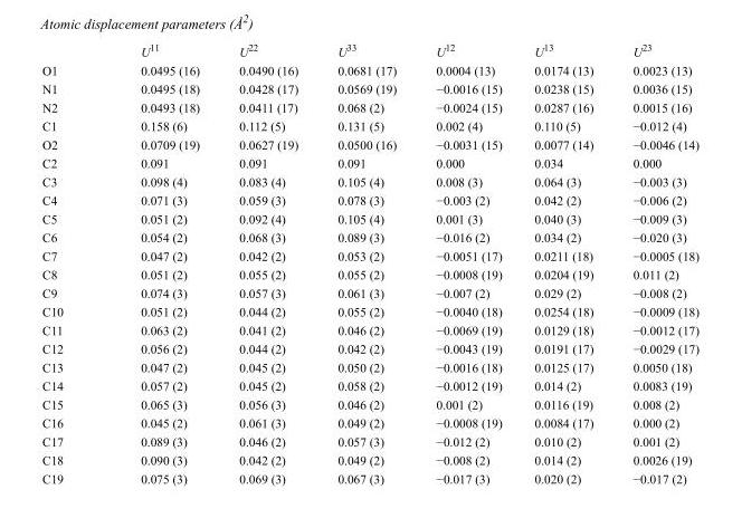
<table><thead><tr><td></td><td>U<sup>11</sup></td><td>U<sup>22</sup></td><td>U<sup>33</sup></td><td>U<sup>12</sup></td><td>U<sup>13</sup></td><td>U<sup>23</sup></td></tr></thead><tbody><tr><td>O1</td><td>0.0495 (16)</td><td>0.0490 (16)</td><td>0.0681 (17)</td><td>0.0004 (13)</td><td>0.0174 (13)</td><td>0.0023 (13)</td></tr><tr><td>N1</td><td>0.0495 (18)</td><td>0.0428 (17)</td><td>0.0569 (19)</td><td>−0.0016 (15)</td><td>0.0238 (15)</td><td>0.0036 (15)</td></tr><tr><td>N2</td><td>0.0493 (18)</td><td>0.0411 (17)</td><td>0.068 (2)</td><td>−0.0024 (15)</td><td>0.0287 (16)</td><td>0.0015 (16)</td></tr><tr><td>C1</td><td>0.158 (6)</td><td>0.112 (5)</td><td>0.131 (5)</td><td>0.002 (4)</td><td>0.110 (5)</td><td>−0.012 (4)</td></tr><tr><td>O2</td><td>0.0709 (19)</td><td>0.0627 (19)</td><td>0.0500 (16)</td><td>−0.0031 (15)</td><td>0.0077 (14)</td><td>−0.0046 (14)</td></tr><tr><td>C2</td><td>0.091</td><td>0.091</td><td>0.091</td><td>0.000</td><td>0.034</td><td>0.000</td></tr><tr><td>C3</td><td>0.098 (4)</td><td>0.083 (4)</td><td>0.105 (4)</td><td>0.008 (3)</td><td>0.064 (3)</td><td>−0.003 (3)</td></tr><tr><td>C4</td><td>0.071 (3)</td><td>0.059 (3)</td><td>0.078 (3)</td><td>−0.003 (2)</td><td>0.042 (2)</td><td>−0.006 (2)</td></tr><tr><td>C5</td><td>0.051 (2)</td><td>0.092 (4)</td><td>0.105 (4)</td><td>0.001 (3)</td><td>0.040 (3)</td><td>−0.009 (3)</td></tr><tr><td>C6</td><td>0.054 (2)</td><td>0.068 (3)</td><td>0.089 (3)</td><td>−0.016 (2)</td><td>0.034 (2)</td><td>−0.020 (3)</td></tr><tr><td>C7</td><td>0.047 (2)</td><td>0.042 (2)</td><td>0.053 (2)</td><td>−0.0051 (17)</td><td>0.0211 (18)</td><td>−0.0005 (18)</td></tr><tr><td>C8</td><td>0.051 (2)</td><td>0.055 (2)</td><td>0.055 (2)</td><td>−0.0008 (19)</td><td>0.0204 (19)</td><td>0.011 (2)</td></tr><tr><td>C9</td><td>0.074 (3)</td><td>0.057 (3)</td><td>0.061 (3)</td><td>−0.007 (2)</td><td>0.029 (2)</td><td>−0.008 (2)</td></tr><tr><td>C10</td><td>0.051 (2)</td><td>0.044 (2)</td><td>0.055 (2)</td><td>−0.0040 (18)</td><td>0.0254 (18)</td><td>−0.0009 (18)</td></tr><tr><td>C11</td><td>0.063 (2)</td><td>0.041 (2)</td><td>0.046 (2)</td><td>−0.0069 (19)</td><td>0.0129 (18)</td><td>−0.0012 (17)</td></tr><tr><td>C12</td><td>0.056 (2)</td><td>0.044 (2)</td><td>0.042 (2)</td><td>−0.0043 (19)</td><td>0.0191 (17)</td><td>−0.0029 (17)</td></tr><tr><td>C13</td><td>0.047 (2)</td><td>0.045 (2)</td><td>0.050 (2)</td><td>−0.0016 (18)</td><td>0.0125 (17)</td><td>0.0050 (18)</td></tr><tr><td>C14</td><td>0.057 (2)</td><td>0.045 (2)</td><td>0.058 (2)</td><td>−0.0012 (19)</td><td>0.014 (2)</td><td>0.0083 (19)</td></tr><tr><td>C15</td><td>0.065 (3)</td><td>0.056 (3)</td><td>0.046 (2)</td><td>0.001 (2)</td><td>0.0116 (19)</td><td>0.008 (2)</td></tr><tr><td>C16</td><td>0.045 (2)</td><td>0.061 (3)</td><td>0.049 (2)</td><td>−0.0008 (19)</td><td>0.0084 (17)</td><td>0.000 (2)</td></tr><tr><td>C17</td><td>0.089 (3)</td><td>0.046 (2)</td><td>0.057 (3)</td><td>−0.012 (2)</td><td>0.010 (2)</td><td>0.001 (2)</td></tr><tr><td>C18</td><td>0.090 (3)</td><td>0.042 (2)</td><td>0.049 (2)</td><td>−0.008 (2)</td><td>0.014 (2)</td><td>0.0026 (19)</td></tr><tr><td>C19</td><td>0.075 (3)</td><td>0.069 (3)</td><td>0.067 (3)</td><td>−0.017 (3)</td><td>0.020 (2)</td><td>−0.017 (2)</td></tr></tbody></table>